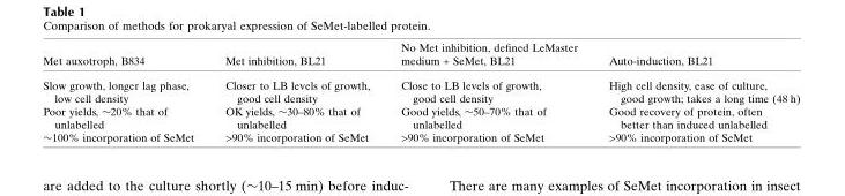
<table><thead><tr><td>Met auxotroph, B834</td><td>Met inhibition, BL21</td><td>No Met inhibition, defined LeMaster medium + SeMet, BL21</td><td>Auto-induction, BL21</td></tr></thead><tbody><tr><td>Slow growth, longer lag phase, low cell density</td><td>Closer to LB levels of growth, good cell density</td><td>Close to LB levels of growth, good cell density</td><td>High cell density, ease of culture, good growth; takes a long time (48 h)</td></tr><tr><td>Poor yields, ∼20% that of unlabelled</td><td>OK yields, ∼30–80% that of unlabelled</td><td>Good yields, ∼50–70% that of unlabelled</td><td>Good recovery of protein, often better than induced unlabelled</td></tr><tr><td>∼100% incorporation of SeMet</td><td>&gt;90% incorporation of SeMet</td><td>&gt;90% incorporation of SeMet</td><td>&gt;90% incorporation of SeMet</td></tr></tbody></table>